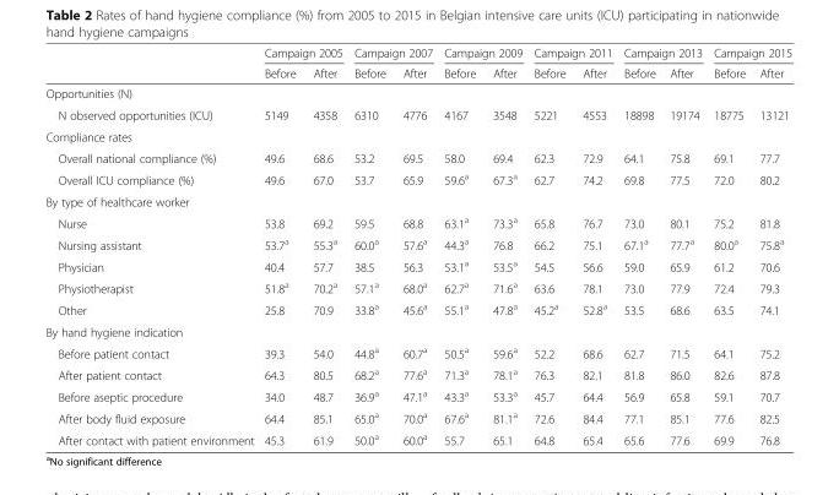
<table><thead><tr><td rowspan="2"></td><td colspan="2">Campaign 2005</td><td colspan="2">Campaign 2007</td><td colspan="2">Campaign 2009</td><td colspan="2">Campaign 2011</td><td colspan="2">Campaign 2013</td><td colspan="2">Campaign 2015</td></tr><tr><td>Before</td><td>After</td><td>Before</td><td>After</td><td>Before</td><td>After</td><td>Before</td><td>After</td><td>Before</td><td>After</td><td>Before</td><td>After</td></tr></thead><tbody><tr><td colspan="13">Opportunities (N)</td></tr><tr><td>N observed opportunities (ICU)</td><td>5149</td><td>4358</td><td>6310</td><td>4776</td><td>4167</td><td>3548</td><td>5221</td><td>4553</td><td>18898</td><td>19174</td><td>18775</td><td>13121</td></tr><tr><td colspan="13">Compliance rates</td></tr><tr><td>Overall national compliance (%)</td><td>49.6</td><td>68.6</td><td>53.2</td><td>69.5</td><td>58.0</td><td>69.4</td><td>62.3</td><td>72.9</td><td>64.1</td><td>75.8</td><td>69.1</td><td>77.7</td></tr><tr><td>Overall ICU compliance (%)</td><td>49.6</td><td>67.0</td><td>53.7</td><td>65.9</td><td>59.6<sup>a</sup></td><td>67.3<sup>a</sup></td><td>62.7</td><td>74.2</td><td>69.8</td><td>77.5</td><td>72.0</td><td>80.2</td></tr><tr><td colspan="13">By type of healthcare worker</td></tr><tr><td>Nurse</td><td>53.8</td><td>69.2</td><td>59.5</td><td>68.8</td><td>63.1<sup>a</sup></td><td>73.3<sup>a</sup></td><td>65.8</td><td>76.7</td><td>73.0</td><td>80.1</td><td>75.2</td><td>81.8</td></tr><tr><td>Nursing assistant</td><td>53.7<sup>a</sup></td><td>55.3<sup>a</sup></td><td>60.0<sup>a</sup></td><td>57.6<sup>a</sup></td><td>44.3<sup>a</sup></td><td>76.8</td><td>66.2</td><td>75.1</td><td>67.1<sup>a</sup></td><td>77.7<sup>a</sup></td><td>80.0<sup>a</sup></td><td>75.8<sup>a</sup></td></tr><tr><td>Physician</td><td>40.4</td><td>57.7</td><td>38.5</td><td>56.3</td><td>53.1<sup>a</sup></td><td>53.5<sup>a</sup></td><td>54.5</td><td>56.6</td><td>59.0</td><td>65.9</td><td>61.2</td><td>70.6</td></tr><tr><td>Physiotherapist</td><td>51.8<sup>a</sup></td><td>70.2<sup>a</sup></td><td>57.1<sup>a</sup></td><td>68.0<sup>a</sup></td><td>62.7<sup>a</sup></td><td>71.6<sup>a</sup></td><td>63.6</td><td>78.1</td><td>73.0</td><td>77.9</td><td>72.4</td><td>79.3</td></tr><tr><td>Other</td><td>25.8</td><td>70.9</td><td>33.8<sup>a</sup></td><td>45.6<sup>a</sup></td><td>55.1<sup>a</sup></td><td>47.8<sup>a</sup></td><td>45.2<sup>a</sup></td><td>52.8<sup>a</sup></td><td>53.5</td><td>68.6</td><td>63.5</td><td>74.1</td></tr><tr><td colspan="13">By hand hygiene indication</td></tr><tr><td>Before patient contact</td><td>39.3</td><td>54.0</td><td>44.8<sup>a</sup></td><td>60.7<sup>a</sup></td><td>50.5<sup>a</sup></td><td>59.6<sup>a</sup></td><td>52.2</td><td>68.6</td><td>62.7</td><td>71.5</td><td>64.1</td><td>75.2</td></tr><tr><td>After patient contact</td><td>64.3</td><td>80.5</td><td>68.2<sup>a</sup></td><td>77.6<sup>a</sup></td><td>71.3<sup>a</sup></td><td>78.1<sup>a</sup></td><td>76.3</td><td>82.1</td><td>81.8</td><td>86.0</td><td>82.6</td><td>87.8</td></tr><tr><td>Before aseptic procedure</td><td>34.0</td><td>48.7</td><td>36.9<sup>a</sup></td><td>47.1<sup>a</sup></td><td>43.3<sup>a</sup></td><td>53.3<sup>a</sup></td><td>45.7</td><td>64.4</td><td>56.9</td><td>65.8</td><td>59.1</td><td>70.7</td></tr><tr><td>After body fluid exposure</td><td>64.4</td><td>85.1</td><td>65.0<sup>a</sup></td><td>70.0<sup>a</sup></td><td>67.6<sup>a</sup></td><td>81.1<sup>a</sup></td><td>72.6</td><td>84.4</td><td>77.1</td><td>85.1</td><td>77.6</td><td>82.5</td></tr><tr><td>After contact with patient environment</td><td>45.3</td><td>61.9</td><td>50.0<sup>a</sup></td><td>60.0<sup>a</sup></td><td>55.7</td><td>65.1</td><td>64.8</td><td>65.4</td><td>65.6</td><td>77.6</td><td>69.9</td><td>76.8</td></tr></tbody></table>